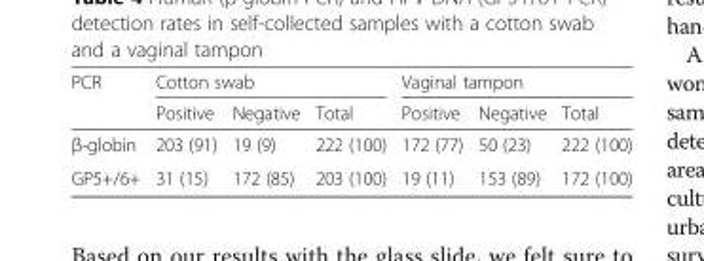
<table><thead><tr><td rowspan="2">PCR</td><td colspan="3">Cotton swab</td><td colspan="3">Vaginal tampon</td></tr><tr><td>Positive</td><td>Negative</td><td>Total</td><td>Positive</td><td>Negative</td><td>Total</td></tr></thead><tbody><tr><td>β-globin</td><td>203 (91)</td><td>19 (9)</td><td>222 (100)</td><td>172 (77)</td><td>50 (23)</td><td>222 (100)</td></tr><tr><td>GP5+/6+</td><td>31 (15)</td><td>172 (85)</td><td>203 (100)</td><td>19 (11)</td><td>153 (89)</td><td>172 (100)</td></tr></tbody></table>